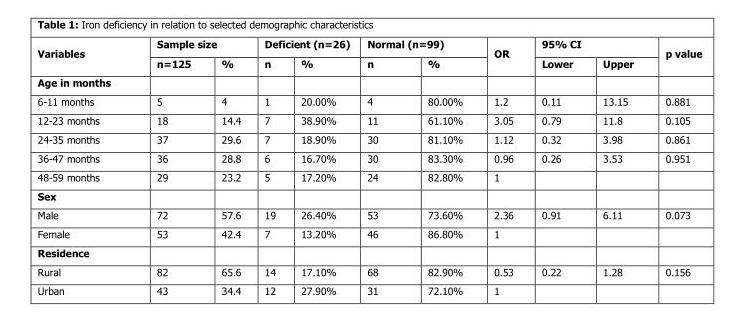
<table><thead><tr><td rowspan="2">Variables</td><td colspan="2">Sample size</td><td colspan="2">Deficient (n=26)</td><td colspan="2">Normal (n=99)</td><td rowspan="2">OR</td><td colspan="2">95% CI</td><td rowspan="2">p value</td></tr><tr><td>n=125</td><td>%</td><td>n</td><td>%</td><td>n</td><td>%</td><td>Lower</td><td>Upper</td></tr></thead><tbody><tr><td colspan="11">Age in months</td></tr><tr><td>6-11 months</td><td>5</td><td>4</td><td>1</td><td>20.00%</td><td>4</td><td>80.00%</td><td>1.2</td><td>0.11</td><td>13.15</td><td>0.881</td></tr><tr><td>12-23 months</td><td>18</td><td>14.4</td><td>7</td><td>38.90%</td><td>11</td><td>61.10%</td><td>3.05</td><td>0.79</td><td>11.8</td><td>0.105</td></tr><tr><td>24-35 months</td><td>37</td><td>29.6</td><td>7</td><td>18.90%</td><td>30</td><td>81.10%</td><td>1.12</td><td>0.32</td><td>3.98</td><td>0.861</td></tr><tr><td>36-47 months</td><td>36</td><td>28.8</td><td>6</td><td>16.70%</td><td>30</td><td>83.30%</td><td>0.96</td><td>0.26</td><td>3.53</td><td>0.951</td></tr><tr><td>48-59 months</td><td>29</td><td>23.2</td><td>5</td><td>17.20%</td><td>24</td><td>82.80%</td><td>1</td><td></td><td></td><td></td></tr><tr><td colspan="11">Sex</td></tr><tr><td>Male</td><td>72</td><td>57.6</td><td>19</td><td>26.40%</td><td>53</td><td>73.60%</td><td>2.36</td><td>0.91</td><td>6.11</td><td>0.073</td></tr><tr><td>Female</td><td>53</td><td>42.4</td><td>7</td><td>13.20%</td><td>46</td><td>86.80%</td><td>1</td><td></td><td></td><td></td></tr><tr><td colspan="11">Residence</td></tr><tr><td>Rural</td><td>82</td><td>65.6</td><td>14</td><td>17.10%</td><td>68</td><td>82.90%</td><td>0.53</td><td>0.22</td><td>1.28</td><td>0.156</td></tr><tr><td>Urban</td><td>43</td><td>34.4</td><td>12</td><td>27.90%</td><td>31</td><td>72.10%</td><td>1</td><td></td><td></td><td></td></tr></tbody></table>